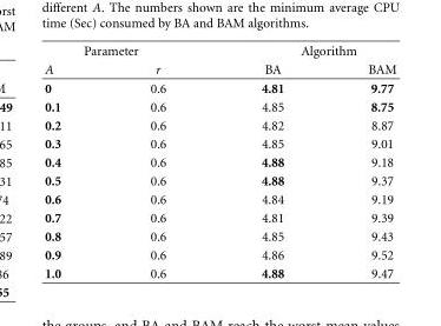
<table><thead><tr><td colspan="2">Parameter</td><td colspan="2">Algorithm</td></tr><tr><td>A</td><td>r</td><td>BA</td><td>BAM</td></tr></thead><tbody><tr><td>0</td><td>0.6</td><td>4.81</td><td>9.77</td></tr><tr><td>0.1</td><td>0.6</td><td>4.85</td><td>8.75</td></tr><tr><td>0.2</td><td>0.6</td><td>4.82</td><td>8.87</td></tr><tr><td>0.3</td><td>0.6</td><td>4.85</td><td>9.01</td></tr><tr><td>0.4</td><td>0.6</td><td>4.88</td><td>9.18</td></tr><tr><td>0.5</td><td>0.6</td><td>4.88</td><td>9.37</td></tr><tr><td>0.6</td><td>0.6</td><td>4.84</td><td>9.19</td></tr><tr><td>0.7</td><td>0.6</td><td>4.81</td><td>9.39</td></tr><tr><td>0.8</td><td>0.6</td><td>4.85</td><td>9.43</td></tr><tr><td>0.9</td><td>0.6</td><td>4.86</td><td>9.52</td></tr><tr><td>1.0</td><td>0.6</td><td>4.88</td><td>9.47</td></tr></tbody></table>